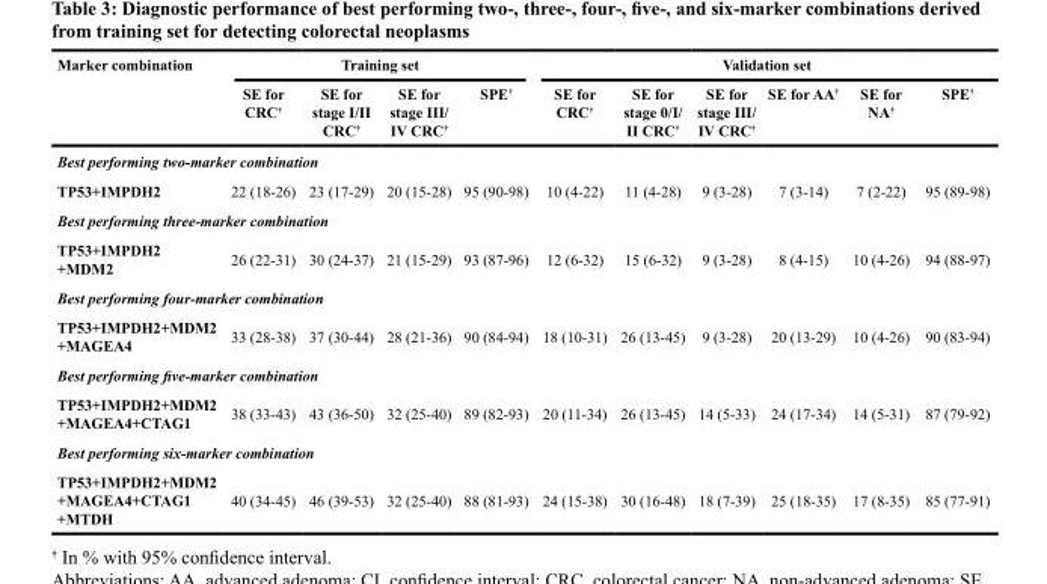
<table><thead><tr><td rowspan="2">Marker combination</td><td colspan="4">Training set</td><td colspan="6">Validation set</td></tr><tr><td>SE for CRC<sup>†</sup></td><td>SE for stage I/II CRC<sup>†</sup></td><td>SE for stage III/ IV CRC<sup>†</sup></td><td>SPE<sup>†</sup></td><td>SE for CRC<sup>†</sup></td><td>SE for stage 0/I/ II CRC<sup>†</sup></td><td>SE for stage III/ IV CRC<sup>†</sup></td><td>SE for AA<sup>†</sup></td><td>SE for NA<sup>†</sup></td><td>SPE<sup>†</sup></td></tr></thead><tbody><tr><td colspan="11">Best performing two-marker combination</td></tr><tr><td>TP53+IMPDH2</td><td>22 (18-26)</td><td>23 (17-29)</td><td>20 (15-28)</td><td>95 (90-98)</td><td>10 (4-22)</td><td>11 (4-28)</td><td>9 (3-28)</td><td>7 (3-14)</td><td>7 (2-22)</td><td>95 (89-98)</td></tr><tr><td colspan="11">Best performing three-marker combination</td></tr><tr><td>TP53+IMPDH2 +MDM2</td><td>26 (22-31)</td><td>30 (24-37)</td><td>21 (15-29)</td><td>93 (87-96)</td><td>12 (6-32)</td><td>15 (6-32)</td><td>9 (3-28)</td><td>8 (4-15)</td><td>10 (4-26)</td><td>94 (88-97)</td></tr><tr><td colspan="11">Best performing four-marker combination</td></tr><tr><td>TP53+IMPDH2+MDM2 +MAGEA4</td><td>33 (28-38)</td><td>37 (30-44)</td><td>28 (21-36)</td><td>90 (84-94)</td><td>18 (10-31)</td><td>26 (13-45)</td><td>9 (3-28)</td><td>20 (13-29)</td><td>10 (4-26)</td><td>90 (83-94)</td></tr><tr><td colspan="11">Best performing five-marker combination</td></tr><tr><td>TP53+IMPDH2+MDM2 +MAGEA4+CTAG1</td><td>38 (33-43)</td><td>43 (36-50)</td><td>32 (25-40)</td><td>89 (82-93)</td><td>20 (11-34)</td><td>26 (13-45)</td><td>14 (5-33)</td><td>24 (17-34)</td><td>14 (5-31)</td><td>87 (79-92)</td></tr><tr><td colspan="11">Best performing six-marker combination</td></tr><tr><td>TP53+IMPDH2+MDM2 +MAGEA4+CTAG1 +MTDH</td><td>40 (34-45)</td><td>46 (39-53)</td><td>32 (25-40)</td><td>88 (81-93)</td><td>24 (15-38)</td><td>30 (16-48)</td><td>18 (7-39)</td><td>25 (18-35)</td><td>17 (8-35)</td><td>85 (77-91)</td></tr></tbody></table>